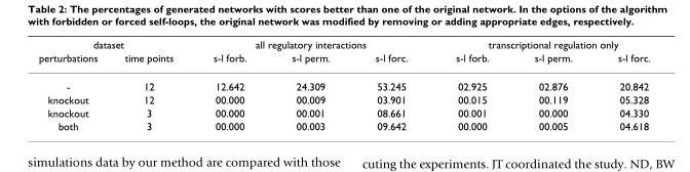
<table><thead><tr><td colspan="2">dataset</td><td colspan="3">all regulatory interactions</td><td colspan="3">transcriptional regulation only</td></tr><tr><td>perturbations</td><td>time points</td><td>s-l forb.</td><td>s-l perm.</td><td>s-l forc.</td><td>s-l forb.</td><td>s-l perm.</td><td>s-l forc.</td></tr></thead><tbody><tr><td>-</td><td>12</td><td>12.642</td><td>24.309</td><td>53.245</td><td>02.925</td><td>02.876</td><td>20.842</td></tr><tr><td>knockout</td><td>12</td><td>00.000</td><td>00.009</td><td>03.901</td><td>00.015</td><td>00.119</td><td>05.328</td></tr><tr><td>knockout</td><td>3</td><td>00.000</td><td>00.001</td><td>08.661</td><td>00.001</td><td>00.000</td><td>04.330</td></tr><tr><td>both</td><td>3</td><td>00.000</td><td>00.003</td><td>09.642</td><td>00.000</td><td>00.005</td><td>04.618</td></tr></tbody></table>